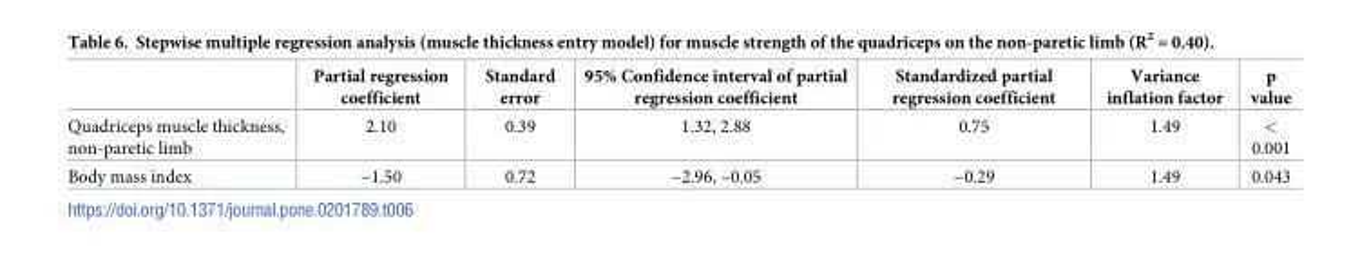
<table><thead><tr><td></td><td>Partial regression coefficient</td><td>Standard error</td><td>95% Confidence interval of partial regression coefficient</td><td>Standardized partial regression coefficient</td><td>Variance inflation factor</td><td>p value</td></tr></thead><tbody><tr><td>Quadriceps muscle thickness, non-paretic limb</td><td>2.10</td><td>0.39</td><td>1.32, 2.88</td><td>0.75</td><td>1.49</td><td>&lt; 0.001</td></tr><tr><td>Body mass index</td><td>−1.50</td><td>0.72</td><td>−2.96, −0.05</td><td>−0.29</td><td>1.49</td><td>0.043</td></tr></tbody></table>